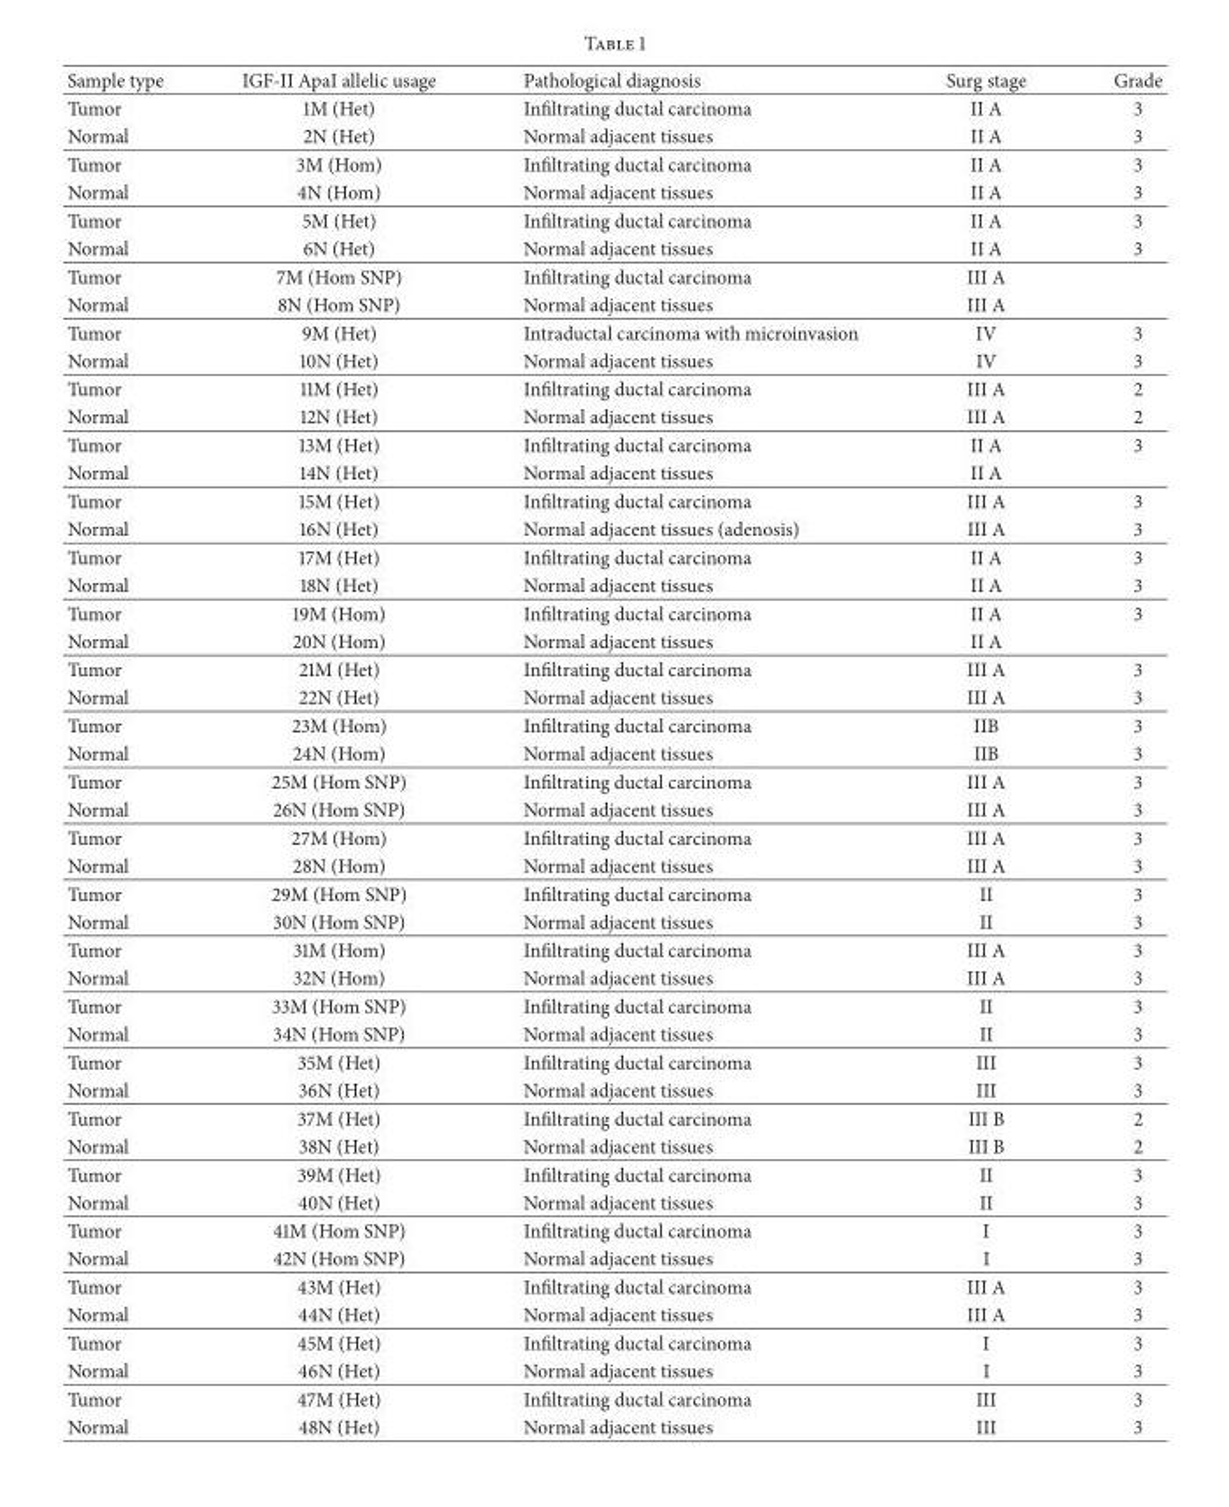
<table><thead><tr><td>Sample type</td><td>IGF-II ApaI allelic usage</td><td>Pathological diagnosis</td><td>Surg stage</td><td>Grade</td></tr></thead><tbody><tr><td>Tumor</td><td>1M (Het)</td><td>Infiltrating ductal carcinoma</td><td>II A</td><td>3</td></tr><tr><td>Normal</td><td>2N (Het)</td><td>Normal adjacent tissues</td><td>II A</td><td>3</td></tr><tr><td>Tumor</td><td>3M (Hom)</td><td>Infiltrating ductal carcinoma</td><td>II A</td><td>3</td></tr><tr><td>Normal</td><td>4N (Hom)</td><td>Normal adjacent tissues</td><td>II A</td><td>3</td></tr><tr><td>Tumor</td><td>5M (Het)</td><td>Infiltrating ductal carcinoma</td><td>II A</td><td>3</td></tr><tr><td>Normal</td><td>6N (Het)</td><td>Normal adjacent tissues</td><td>II A</td><td>3</td></tr><tr><td>Tumor</td><td>7M (Hom SNP)</td><td>Infiltrating ductal carcinoma</td><td>III A</td><td></td></tr><tr><td>Normal</td><td>8N (Hom SNP)</td><td>Normal adjacent tissues</td><td>III A</td><td></td></tr><tr><td>Tumor</td><td>9M (Het)</td><td>Intraductal carcinoma with microinvasion</td><td>IV</td><td>3</td></tr><tr><td>Normal</td><td>10N (Het)</td><td>Normal adjacent tissues</td><td>IV</td><td>3</td></tr><tr><td>Tumor</td><td>11M (Het)</td><td>Infiltrating ductal carcinoma</td><td>III A</td><td>2</td></tr><tr><td>Normal</td><td>12N (Het)</td><td>Normal adjacent tissues</td><td>III A</td><td>2</td></tr><tr><td>Tumor</td><td>13M (Het)</td><td>Infiltrating ductal carcinoma</td><td>II A</td><td>3</td></tr><tr><td>Normal</td><td>14N (Het)</td><td>Normal adjacent tissues</td><td>II A</td><td></td></tr><tr><td>Tumor</td><td>15M (Het)</td><td>Infiltrating ductal carcinoma</td><td>III A</td><td>3</td></tr><tr><td>Normal</td><td>16N (Het)</td><td>Normal adjacent tissues (adenosis)</td><td>III A</td><td>3</td></tr><tr><td>Tumor</td><td>17M (Het)</td><td>Infiltrating ductal carcinoma</td><td>II A</td><td>3</td></tr><tr><td>Normal</td><td>18N (Het)</td><td>Normal adjacent tissues</td><td>II A</td><td>3</td></tr><tr><td>Tumor</td><td>19M (Hom)</td><td>Infiltrating ductal carcinoma</td><td>II A</td><td>3</td></tr><tr><td>Normal</td><td>20N (Hom)</td><td>Normal adjacent tissues</td><td>II A</td><td></td></tr><tr><td>Tumor</td><td>21M (Het)</td><td>Infiltrating ductal carcinoma</td><td>III A</td><td>3</td></tr><tr><td>Normal</td><td>22N (Het)</td><td>Normal adjacent tissues</td><td>III A</td><td>3</td></tr><tr><td>Tumor</td><td>23M (Hom)</td><td>Infiltrating ductal carcinoma</td><td>IIB</td><td>3</td></tr><tr><td>Normal</td><td>24N (Hom)</td><td>Normal adjacent tissues</td><td>IIB</td><td>3</td></tr><tr><td>Tumor</td><td>25M (Hom SNP)</td><td>Infiltrating ductal carcinoma</td><td>III A</td><td>3</td></tr><tr><td>Normal</td><td>26N (Hom SNP)</td><td>Normal adjacent tissues</td><td>III A</td><td>3</td></tr><tr><td>Tumor</td><td>27M (Hom)</td><td>Infiltrating ductal carcinoma</td><td>III A</td><td>3</td></tr><tr><td>Normal</td><td>28N (Hom)</td><td>Normal adjacent tissues</td><td>III A</td><td>3</td></tr><tr><td>Tumor</td><td>29M (Hom SNP)</td><td>Infiltrating ductal carcinoma</td><td>II</td><td>3</td></tr><tr><td>Normal</td><td>30N (Hom SNP)</td><td>Normal adjacent tissues</td><td>II</td><td>3</td></tr><tr><td>Tumor</td><td>31M (Hom)</td><td>Infiltrating ductal carcinoma</td><td>III A</td><td>3</td></tr><tr><td>Normal</td><td>32N (Hom)</td><td>Normal adjacent tissues</td><td>III A</td><td>3</td></tr><tr><td>Tumor</td><td>33M (Hom SNP)</td><td>Infiltrating ductal carcinoma</td><td>II</td><td>3</td></tr><tr><td>Normal</td><td>34N (Hom SNP)</td><td>Normal adjacent tissues</td><td>II</td><td>3</td></tr><tr><td>Tumor</td><td>35M (Het)</td><td>Infiltrating ductal carcinoma</td><td>III</td><td>3</td></tr><tr><td>Normal</td><td>36N (Het)</td><td>Normal adjacent tissues</td><td>III</td><td>3</td></tr><tr><td>Tumor</td><td>37M (Het)</td><td>Infiltrating ductal carcinoma</td><td>III B</td><td>2</td></tr><tr><td>Normal</td><td>38N (Het)</td><td>Normal adjacent tissues</td><td>III B</td><td>2</td></tr><tr><td>Tumor</td><td>39M (Het)</td><td>Infiltrating ductal carcinoma</td><td>II</td><td>3</td></tr><tr><td>Normal</td><td>40N (Het)</td><td>Normal adjacent tissues</td><td>II</td><td>3</td></tr><tr><td>Tumor</td><td>41M (Hom SNP)</td><td>Infiltrating ductal carcinoma</td><td>I</td><td>3</td></tr><tr><td>Normal</td><td>42N (Hom SNP)</td><td>Normal adjacent tissues</td><td>I</td><td>3</td></tr><tr><td>Tumor</td><td>43M (Het)</td><td>Infiltrating ductal carcinoma</td><td>III A</td><td>3</td></tr><tr><td>Normal</td><td>44N (Het)</td><td>Normal adjacent tissues</td><td>III A</td><td>3</td></tr><tr><td>Tumor</td><td>45M (Het)</td><td>Infiltrating ductal carcinoma</td><td>I</td><td>3</td></tr><tr><td>Normal</td><td>46N (Het)</td><td>Normal adjacent tissues</td><td>I</td><td>3</td></tr><tr><td>Tumor</td><td>47M (Het)</td><td>Infiltrating ductal carcinoma</td><td>III</td><td>3</td></tr><tr><td>Normal</td><td>48N (Het)</td><td>Normal adjacent tissues</td><td>III</td><td>3</td></tr></tbody></table>